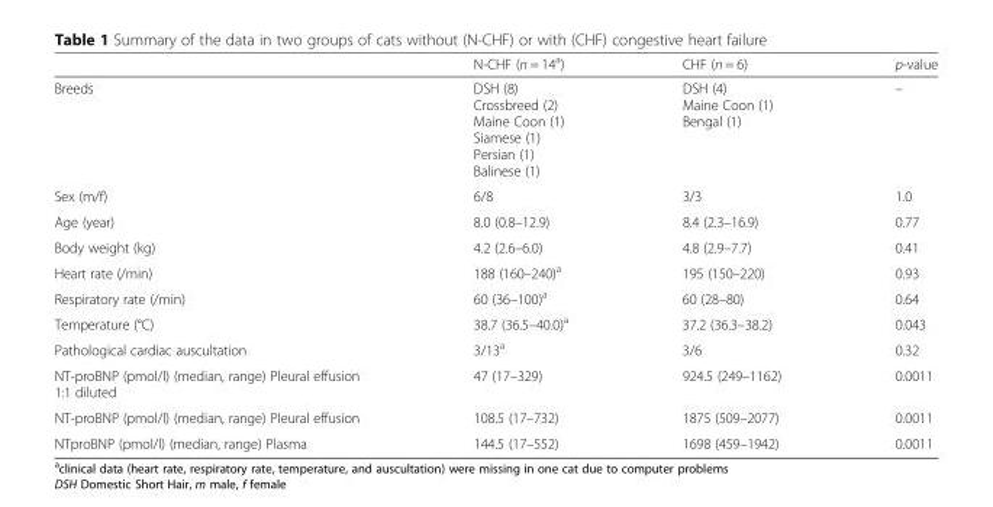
<table><thead><tr><td></td><td>N-CHF (n = 14<sup>a</sup>)</td><td>CHF (n = 6)</td><td>p-value</td></tr></thead><tbody><tr><td>Breeds</td><td>DSH (8) Crossbreed (2) Maine Coon (1) Siamese (1) Persian (1) Balinese (1)</td><td>DSH (4) Maine Coon (1) Bengal (1)</td><td>–</td></tr><tr><td>Sex (m/f)</td><td>6/8</td><td>3/3</td><td>1.0</td></tr><tr><td>Age (year)</td><td>8.0 (0.8–12.9)</td><td>8.4 (2.3–16.9)</td><td>0.77</td></tr><tr><td>Body weight (kg)</td><td>4.2 (2.6–6.0)</td><td>4.8 (2.9–7.7)</td><td>0.41</td></tr><tr><td>Heart rate (/min)</td><td>188 (160–240)<sup>a</sup></td><td>195 (150–220)</td><td>0.93</td></tr><tr><td>Respiratory rate (/min)</td><td>60 (36–100)<sup>a</sup></td><td>60 (28–80)</td><td>0.64</td></tr><tr><td>Temperature (°C)</td><td>38.7 (36.5–40.0)<sup>a</sup></td><td>37.2 (36.3–38.2)</td><td>0.043</td></tr><tr><td>Pathological cardiac auscultation</td><td>3/13<sup>a</sup></td><td>3/6</td><td>0.32</td></tr><tr><td>NT-proBNP (pmol/l) (median, range) Pleural effusion 1:1 diluted</td><td>47 (17–329)</td><td>924.5 (249–1162)</td><td>0.0011</td></tr><tr><td>NT-proBNP (pmol/l) (median, range) Pleural effusion</td><td>108.5 (17–732)</td><td>1875 (509–2077)</td><td>0.0011</td></tr><tr><td>NTproBNP (pmol/l) (median, range) Plasma</td><td>144.5 (17–552)</td><td>1698 (459–1942)</td><td>0.0011</td></tr></tbody></table>